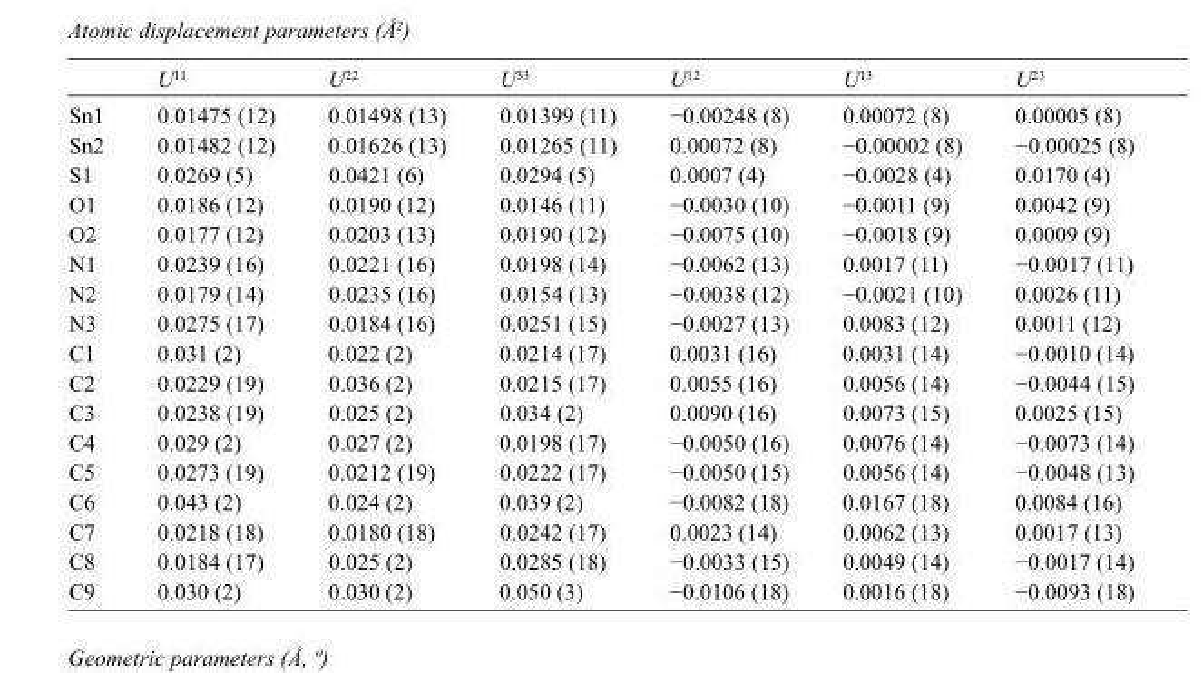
<table><thead><tr><td></td><td>U<sup>11</sup></td><td>U<sup>22</sup></td><td>U<sup>33</sup></td><td>U<sup>12</sup></td><td>U<sup>13</sup></td><td>U<sup>23</sup></td></tr></thead><tbody><tr><td>Sn1</td><td>0.01475 (12)</td><td>0.01498 (13)</td><td>0.01399 (11)</td><td>−0.00248 (8)</td><td>0.00072 (8)</td><td>0.00005 (8)</td></tr><tr><td>Sn2</td><td>0.01482 (12)</td><td>0.01626 (13)</td><td>0.01265 (11)</td><td>0.00072 (8)</td><td>−0.00002 (8)</td><td>−0.00025 (8)</td></tr><tr><td>S1</td><td>0.0269 (5)</td><td>0.0421 (6)</td><td>0.0294 (5)</td><td>0.0007 (4)</td><td>−0.0028 (4)</td><td>0.0170 (4)</td></tr><tr><td>O1</td><td>0.0186 (12)</td><td>0.0190 (12)</td><td>0.0146 (11)</td><td>−0.0030 (10)</td><td>−0.0011 (9)</td><td>0.0042 (9)</td></tr><tr><td>O2</td><td>0.0177 (12)</td><td>0.0203 (13)</td><td>0.0190 (12)</td><td>−0.0075 (10)</td><td>−0.0018 (9)</td><td>0.0009 (9)</td></tr><tr><td>N1</td><td>0.0239 (16)</td><td>0.0221 (16)</td><td>0.0198 (14)</td><td>−0.0062 (13)</td><td>0.0017 (11)</td><td>−0.0017 (11)</td></tr><tr><td>N2</td><td>0.0179 (14)</td><td>0.0235 (16)</td><td>0.0154 (13)</td><td>−0.0038 (12)</td><td>−0.0021 (10)</td><td>0.0026 (11)</td></tr><tr><td>N3</td><td>0.0275 (17)</td><td>0.0184 (16)</td><td>0.0251 (15)</td><td>−0.0027 (13)</td><td>0.0083 (12)</td><td>0.0011 (12)</td></tr><tr><td>C1</td><td>0.031 (2)</td><td>0.022 (2)</td><td>0.0214 (17)</td><td>0.0031 (16)</td><td>0.0031 (14)</td><td>−0.0010 (14)</td></tr><tr><td>C2</td><td>0.0229 (19)</td><td>0.036 (2)</td><td>0.0215 (17)</td><td>0.0055 (16)</td><td>0.0056 (14)</td><td>−0.0044 (15)</td></tr><tr><td>C3</td><td>0.0238 (19)</td><td>0.025 (2)</td><td>0.034 (2)</td><td>0.0090 (16)</td><td>0.0073 (15)</td><td>0.0025 (15)</td></tr><tr><td>C4</td><td>0.029 (2)</td><td>0.027 (2)</td><td>0.0198 (17)</td><td>−0.0050 (16)</td><td>0.0076 (14)</td><td>−0.0073 (14)</td></tr><tr><td>C5</td><td>0.0273 (19)</td><td>0.0212 (19)</td><td>0.0222 (17)</td><td>−0.0050 (15)</td><td>0.0056 (14)</td><td>−0.0048 (13)</td></tr><tr><td>C6</td><td>0.043 (2)</td><td>0.024 (2)</td><td>0.039 (2)</td><td>−0.0082 (18)</td><td>0.0167 (18)</td><td>0.0084 (16)</td></tr><tr><td>C7</td><td>0.0218 (18)</td><td>0.0180 (18)</td><td>0.0242 (17)</td><td>0.0023 (14)</td><td>0.0062 (13)</td><td>0.0017 (13)</td></tr><tr><td>C8</td><td>0.0184 (17)</td><td>0.025 (2)</td><td>0.0285 (18)</td><td>−0.0033 (15)</td><td>0.0049 (14)</td><td>−0.0017 (14)</td></tr><tr><td>C9</td><td>0.030 (2)</td><td>0.030 (2)</td><td>0.050 (3)</td><td>−0.0106 (18)</td><td>0.0016 (18)</td><td>−0.0093 (18)</td></tr></tbody></table>